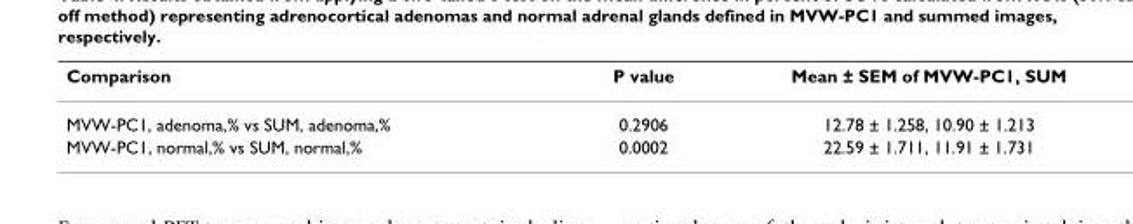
<table><thead><tr><td>Comparison</td><td>P value</td><td>Mean ± SEM of MVW-PC1, SUM</td></tr></thead><tbody><tr><td>MVW-PC1, adenoma,% vs SUM, adenoma,%</td><td>0.2906</td><td>12.78 ± 1.258, 10.90 ± 1.213</td></tr><tr><td>MVW-PC1, normal,% vs SUM, normal,%</td><td>0.0002</td><td>22.59 ± 1.711, 11.91 ± 1.731</td></tr></tbody></table>